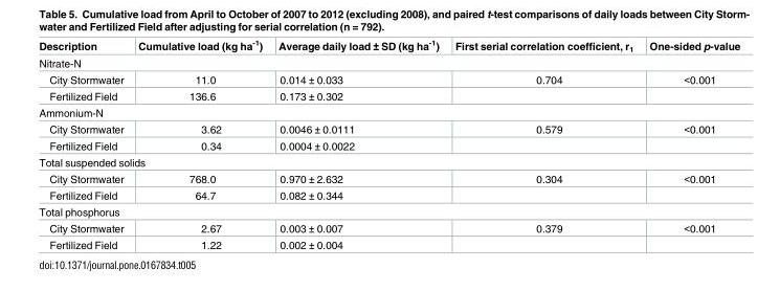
<table><thead><tr><td>Description</td><td>Cumulative load (kg ha<sup>-1</sup>)</td><td>Average daily load ± SD (kg ha<sup>-1</sup>)</td><td>First serial correlation coefficient, r<sub>1</sub></td><td>One-sided p-value</td></tr></thead><tbody><tr><td colspan="5">Nitrate-N</td></tr><tr><td>City Stormwater</td><td>11.0</td><td>0.014 ± 0.033</td><td>0.704</td><td>&lt;0.001</td></tr><tr><td>Fertilized Field</td><td>136.6</td><td>0.173 ± 0.302</td><td></td><td></td></tr><tr><td colspan="5">Ammonium-N</td></tr><tr><td>City Stormwater</td><td>3.62</td><td>0.0046 ± 0.0111</td><td>0.579</td><td>&lt;0.001</td></tr><tr><td>Fertilized Field</td><td>0.34</td><td>0.0004 ± 0.0022</td><td></td><td></td></tr><tr><td colspan="5">Total suspended solids</td></tr><tr><td>City Stormwater</td><td>768.0</td><td>0.970 ± 2.632</td><td>0.304</td><td>&lt;0.001</td></tr><tr><td>Fertilized Field</td><td>64.7</td><td>0.082 ± 0.344</td><td></td><td></td></tr><tr><td colspan="5">Total phosphorus</td></tr><tr><td>City Stormwater</td><td>2.67</td><td>0.003 ± 0.007</td><td>0.379</td><td>&lt;0.001</td></tr><tr><td>Fertilized Field</td><td>1.22</td><td>0.002 ± 0.004</td><td></td><td></td></tr></tbody></table>